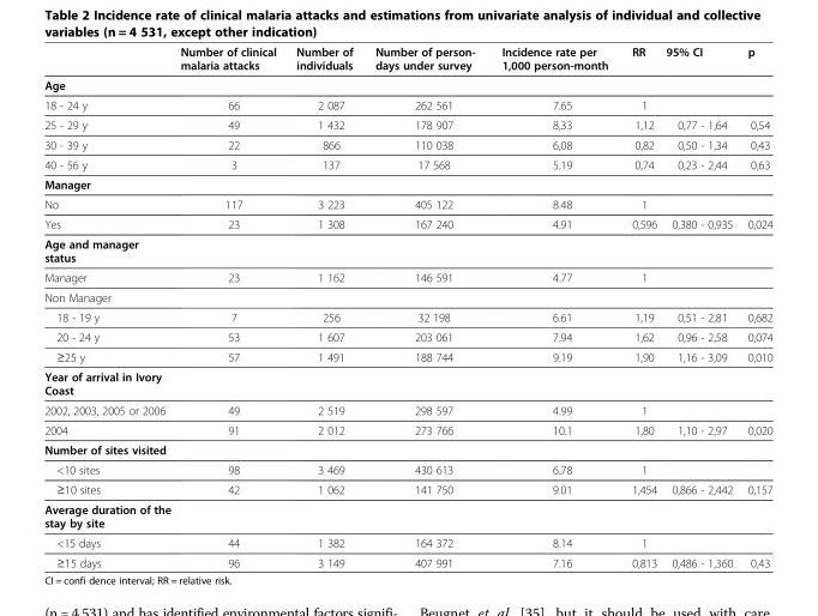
<table><thead><tr><td></td><td>Number of clinical malaria attacks</td><td>Number of individuals</td><td>Number of person- days under survey</td><td>Incidence rate per 1,000 person-month</td><td>RR</td><td>95% CI</td><td>p</td></tr></thead><tbody><tr><td colspan="8">Age</td></tr><tr><td>18 - 24 y</td><td>66</td><td>2 087</td><td>262 561</td><td>7.65</td><td>1</td><td></td><td></td></tr><tr><td>25 - 29 y</td><td>49</td><td>1 432</td><td>178 907</td><td>8,33</td><td>1,12</td><td>0,77 - 1,64</td><td>0,54</td></tr><tr><td>30 - 39 y</td><td>22</td><td>866</td><td>110 038</td><td>6,08</td><td>0,82</td><td>0,50 - 1,34</td><td>0,43</td></tr><tr><td>40 - 56 y</td><td>3</td><td>137</td><td>17 568</td><td>5.19</td><td>0,74</td><td>0,23 - 2,44</td><td>0,63</td></tr><tr><td colspan="8">Manager</td></tr><tr><td>No</td><td>117</td><td>3 223</td><td>405 122</td><td>8.48</td><td>1</td><td></td><td></td></tr><tr><td>Yes</td><td>23</td><td>1 308</td><td>167 240</td><td>4.91</td><td>0,596</td><td>0,380 - 0,935</td><td>0,024</td></tr><tr><td colspan="8">Age and manager status</td></tr><tr><td>Manager</td><td>23</td><td>1 162</td><td>146 591</td><td>4.77</td><td>1</td><td></td><td></td></tr><tr><td colspan="8">Non Manager</td></tr><tr><td>18 - 19 y</td><td>7</td><td>256</td><td>32 198</td><td>6.61</td><td>1,19</td><td>0,51 - 2,81</td><td>0,682</td></tr><tr><td>20 - 24 y</td><td>53</td><td>1 607</td><td>203 061</td><td>7.94</td><td>1,62</td><td>0,96 - 2,58</td><td>0,074</td></tr><tr><td>≥25 y</td><td>57</td><td>1 491</td><td>188 744</td><td>9.19</td><td>1,90</td><td>1,16 - 3,09</td><td>0,010</td></tr><tr><td colspan="8">Year of arrival in Ivory Coast</td></tr><tr><td>2002, 2003, 2005 or 2006</td><td>49</td><td>2 519</td><td>298 597</td><td>4.99</td><td>1</td><td></td><td></td></tr><tr><td>2004</td><td>91</td><td>2 012</td><td>273 766</td><td>10.1</td><td>1,80</td><td>1,10 - 2,97</td><td>0,020</td></tr><tr><td colspan="8">Number of sites visited</td></tr><tr><td>&lt;10 sites</td><td>98</td><td>3 469</td><td>430 613</td><td>6.78</td><td>1</td><td></td><td></td></tr><tr><td>≥10 sites</td><td>42</td><td>1 062</td><td>141 750</td><td>9.01</td><td>1,454</td><td>0,866 - 2,442</td><td>0,157</td></tr><tr><td colspan="8">Average duration of the stay by site</td></tr><tr><td>&lt;15 days</td><td>44</td><td>1 382</td><td>164 372</td><td>8.14</td><td>1</td><td></td><td></td></tr><tr><td>≥15 days</td><td>96</td><td>3 149</td><td>407 991</td><td>7.16</td><td>0,813</td><td>0,486 - 1,360</td><td>0,43</td></tr></tbody></table>